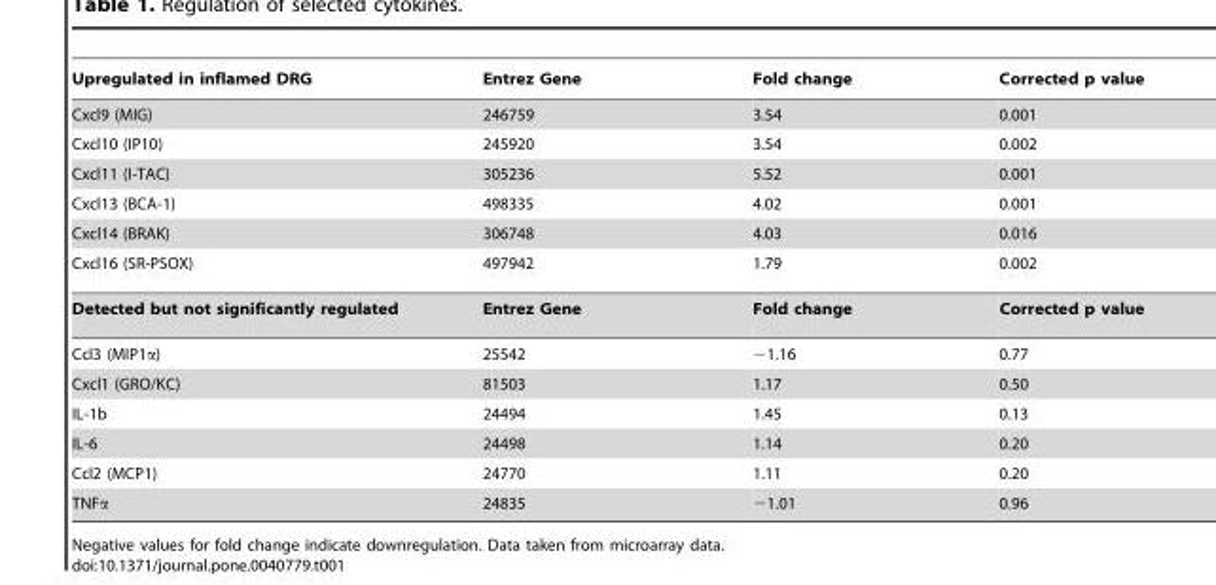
<table><thead><tr><td>Upregulated in inflamed DRG</td><td>Entrez Gene</td><td>Fold change</td><td>Corrected p value</td></tr></thead><tbody><tr><td>Cxcl9 (MIG)</td><td>246759</td><td>3.54</td><td>0.001</td></tr><tr><td>Cxcl10 (IP10)</td><td>245920</td><td>3.54</td><td>0.002</td></tr><tr><td>Cxcl11 (I-TAC)</td><td>305236</td><td>5.52</td><td>0.001</td></tr><tr><td>Cxcl13 (BCA-1)</td><td>498335</td><td>4.02</td><td>0.001</td></tr><tr><td>Cxcl14 (BRAK)</td><td>306748</td><td>4.03</td><td>0.016</td></tr><tr><td>Cxcl16 (SR-PSOX)</td><td>497942</td><td>1.79</td><td>0.002</td></tr><tr><td>Detected but not significantly regulated</td><td>Entrez Gene</td><td>Fold change</td><td>Corrected p value</td></tr><tr><td>Ccl3 (MIP1α)</td><td>25542</td><td>−1.16</td><td>0.77</td></tr><tr><td>Cxcl1 (GRO/KC)</td><td>81503</td><td>1.17</td><td>0.50</td></tr><tr><td>IL-1b</td><td>24494</td><td>1.45</td><td>0.13</td></tr><tr><td>IL-6</td><td>24498</td><td>1.14</td><td>0.20</td></tr><tr><td>Ccl2 (MCP1)</td><td>24770</td><td>1.11</td><td>0.20</td></tr><tr><td>TNFα</td><td>24835</td><td>−1.01</td><td>0.96</td></tr></tbody></table>